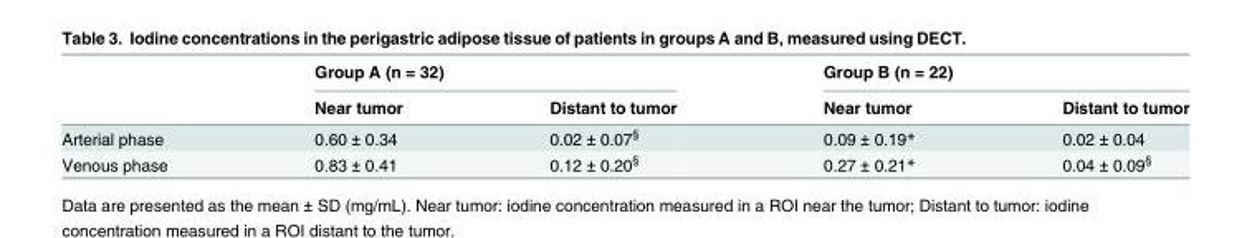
<table><thead><tr><td rowspan="2"></td><td colspan="2">Group A (n = 32)</td><td colspan="2">Group B (n = 22)</td></tr><tr><td>Near tumor</td><td>Distant to tumor</td><td>Near tumor</td><td>Distant to tumor</td></tr></thead><tbody><tr><td>Arterial phase</td><td>0.60 ± 0.34</td><td>0.02 ± 0.07<sup>§</sup></td><td>0.09 ± 0.19*</td><td>0.02 ± 0.04</td></tr><tr><td>Venous phase</td><td>0.83 ± 0.41</td><td>0.12 ± 0.20<sup>§</sup></td><td>0.27 ± 0.21*</td><td>0.04 ± 0.09<sup>§</sup></td></tr></tbody></table>